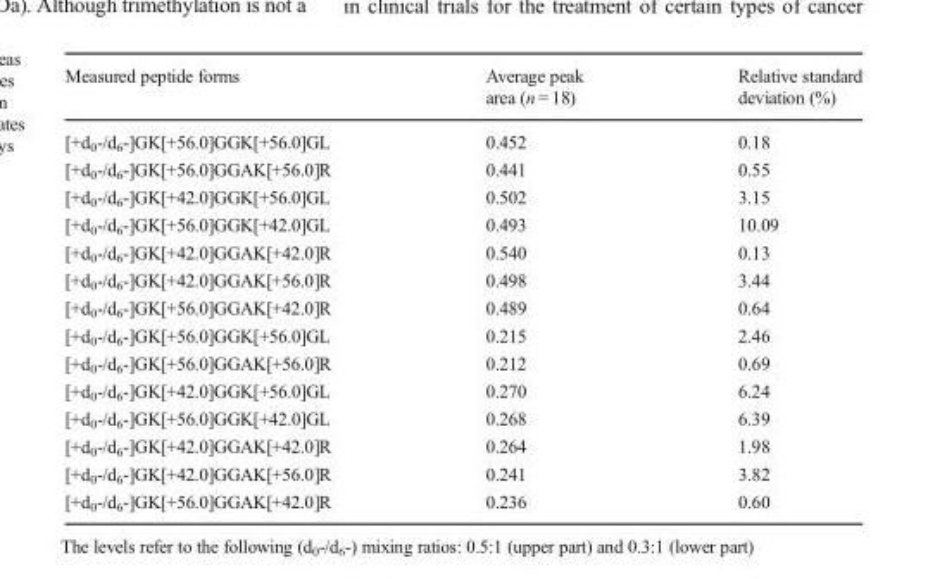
<table><thead><tr><td>Measured peptide forms</td><td>Average peak area (n = 18)</td><td>Relative standard deviation (%)</td></tr></thead><tbody><tr><td>[+d<sub>0</sub>-/d<sub>6</sub>-]GK[+56.0]GGK[+56.0]GL</td><td>0.452</td><td>0.18</td></tr><tr><td>[+d<sub>0</sub>-/d<sub>6</sub>-]GK[+56.0]GGAK[+56.0]R</td><td>0.441</td><td>0.55</td></tr><tr><td>[+d<sub>0</sub>-/d<sub>6</sub>-]GK[+42.0]GGK[+56.0]GL</td><td>0.502</td><td>3.15</td></tr><tr><td>[+d<sub>0</sub>-/d<sub>6</sub>-]GK[+56.0]GGK[+42.0]GL</td><td>0.493</td><td>10.09</td></tr><tr><td>[+d<sub>0</sub>-/d<sub>6</sub>-]GK[+42.0]GGAK[+42.0]R</td><td>0.540</td><td>0.13</td></tr><tr><td>[+d<sub>0</sub>-/d<sub>6</sub>-]GK[+42.0]GGAK[+56.0]R</td><td>0.498</td><td>3.44</td></tr><tr><td>[+d<sub>0</sub>-/d<sub>6</sub>-]GK[+56.0]GGAK[+42.0]R</td><td>0.489</td><td>0.64</td></tr><tr><td>[+d<sub>0</sub>-/d<sub>6</sub>-]GK[+56.0]GGK[+56.0]GL</td><td>0.215</td><td>2.46</td></tr><tr><td>[+d<sub>0</sub>-/d<sub>6</sub>-]GK[+56.0]GGAK[+56.0]R</td><td>0.212</td><td>0.69</td></tr><tr><td>[+d<sub>0</sub>-/d<sub>6</sub>-]GK[+42.0]GGK[+56.0]GL</td><td>0.270</td><td>6.24</td></tr><tr><td>[+d<sub>0</sub>-/d<sub>6</sub>-]GK[+56.0]GGK[+42.0]GL</td><td>0.268</td><td>6.39</td></tr><tr><td>[+d<sub>0</sub>-/d<sub>6</sub>-]GK[+42.0]GGAK[+42.0]R</td><td>0.264</td><td>1.98</td></tr><tr><td>[+d<sub>0</sub>-/d<sub>6</sub>-]GK[+42.0]GGAK[+56.0]R</td><td>0.241</td><td>3.82</td></tr><tr><td>[+d<sub>0</sub>-/d<sub>6</sub>-]GK[+56.0]GGAK[+42.0]R</td><td>0.236</td><td>0.60</td></tr></tbody></table>